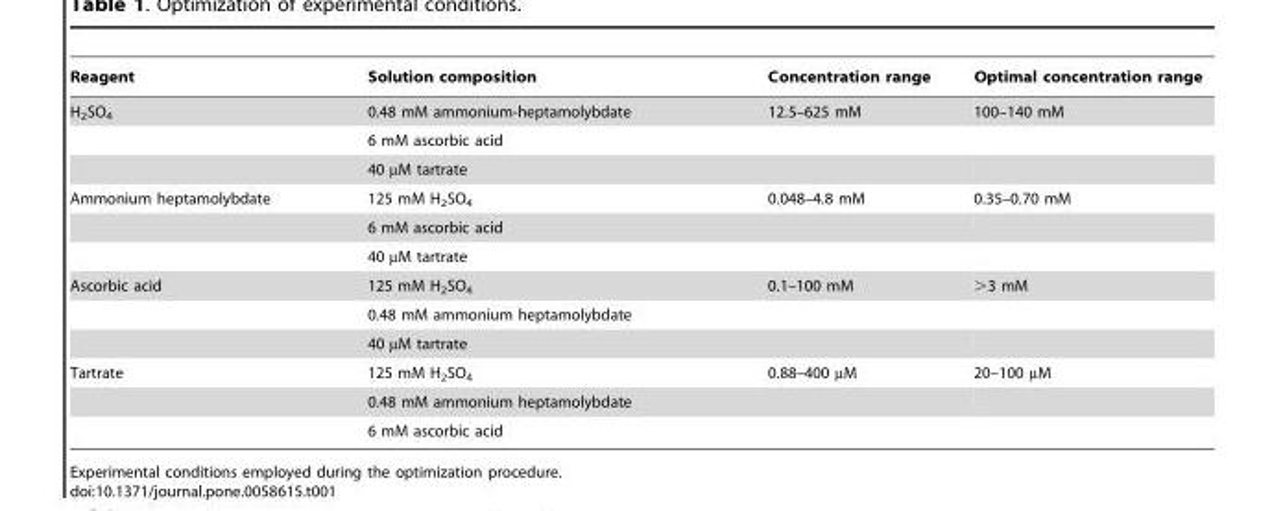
<table><thead><tr><td>Reagent</td><td>Solution composition</td><td>Concentration range</td><td>Optimal concentration range</td></tr></thead><tbody><tr><td rowspan="3">H<sub>2</sub>SO<sub>4</sub></td><td>0.48 mM ammonium-heptamolybdate</td><td>12.5–625 mM</td><td>100–140 mM</td></tr><tr><td>6 mM ascorbic acid</td><td></td><td></td></tr><tr><td>40 µM tartrate</td><td></td><td></td></tr><tr><td rowspan="3">Ammonium heptamolybdate</td><td>125 mM H<sub>2</sub>SO<sub>4</sub></td><td>0.048–4.8 mM</td><td>0.35–0.70 mM</td></tr><tr><td>6 mM ascorbic acid</td><td></td><td></td></tr><tr><td>40 µM tartrate</td><td></td><td></td></tr><tr><td rowspan="3">Ascorbic acid</td><td>125 mM H<sub>2</sub>SO<sub>4</sub></td><td>0.1–100 mM</td><td>&gt;3 mM</td></tr><tr><td>0.48 mM ammonium heptamolybdate</td><td></td><td></td></tr><tr><td>40 µM tartrate</td><td></td><td></td></tr><tr><td rowspan="3">Tartrate</td><td>125 mM H<sub>2</sub>SO<sub>4</sub></td><td>0.88–400 µM</td><td>20–100 µM</td></tr><tr><td>0.48 mM ammonium heptamolybdate</td><td></td><td></td></tr><tr><td>6 mM ascorbic acid</td><td></td><td></td></tr></tbody></table>